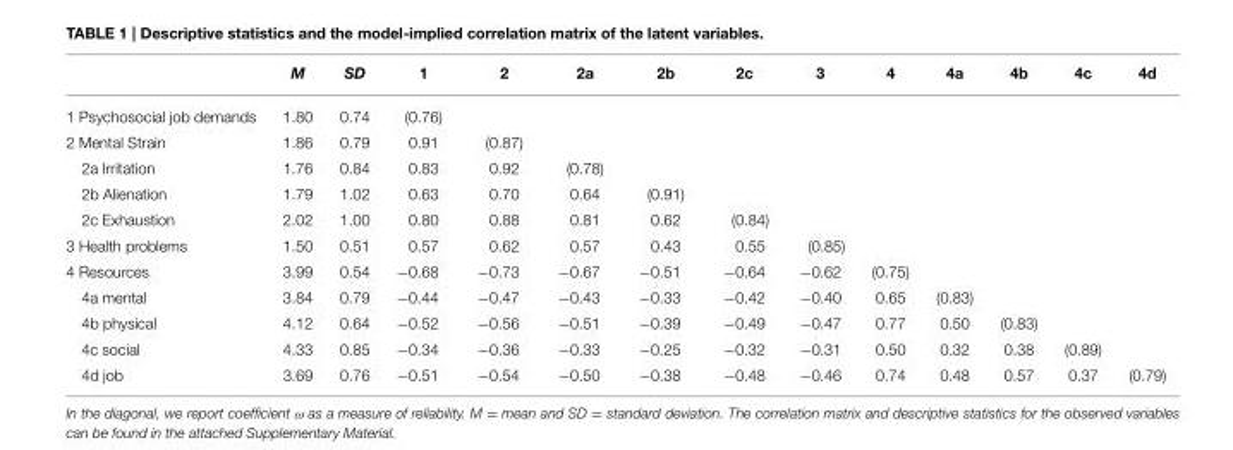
<table><thead><tr><td></td><td>M</td><td>SD</td><td>1</td><td>2</td><td>2a</td><td>2b</td><td>2c</td><td>3</td><td>4</td><td>4a</td><td>4b</td><td>4c</td><td>4d</td></tr></thead><tbody><tr><td>1 Psychosocial job demands</td><td>1.80</td><td>0.74</td><td>(0.76)</td><td></td><td></td><td></td><td></td><td></td><td></td><td></td><td></td><td></td><td></td></tr><tr><td>2 Mental Strain</td><td>1.86</td><td>0.79</td><td>0.91</td><td>(0.87)</td><td></td><td></td><td></td><td></td><td></td><td></td><td></td><td></td><td></td></tr><tr><td>2a Irritation</td><td>1.76</td><td>0.84</td><td>0.83</td><td>0.92</td><td>(0.78)</td><td></td><td></td><td></td><td></td><td></td><td></td><td></td><td></td></tr><tr><td>2b Alienation</td><td>1.79</td><td>1.02</td><td>0.63</td><td>0.70</td><td>0.64</td><td>(0.91)</td><td></td><td></td><td></td><td></td><td></td><td></td><td></td></tr><tr><td>2c Exhaustion</td><td>2.02</td><td>1.00</td><td>0.80</td><td>0.88</td><td>0.81</td><td>0.62</td><td>(0.84)</td><td></td><td></td><td></td><td></td><td></td><td></td></tr><tr><td>3 Health problems</td><td>1.50</td><td>0.51</td><td>0.57</td><td>0.62</td><td>0.57</td><td>0.43</td><td>0.55</td><td>(0.85)</td><td></td><td></td><td></td><td></td><td></td></tr><tr><td>4 Resources</td><td>3.99</td><td>0.54</td><td>−0.68</td><td>−0.73</td><td>−0.67</td><td>−0.51</td><td>−0.64</td><td>−0.62</td><td>(0.75)</td><td></td><td></td><td></td><td></td></tr><tr><td>4a mental</td><td>3.84</td><td>0.79</td><td>−0.44</td><td>−0.47</td><td>−0.43</td><td>−0.33</td><td>−0.42</td><td>−0.40</td><td>0.65</td><td>(0.83)</td><td></td><td></td><td></td></tr><tr><td>4b physical</td><td>4.12</td><td>0.64</td><td>−0.52</td><td>−0.56</td><td>−0.51</td><td>−0.39</td><td>−0.49</td><td>−0.47</td><td>0.77</td><td>0.50</td><td>(0.83)</td><td></td><td></td></tr><tr><td>4c social</td><td>4.33</td><td>0.85</td><td>−0.34</td><td>−0.36</td><td>−0.33</td><td>−0.25</td><td>−0.32</td><td>−0.31</td><td>0.50</td><td>0.32</td><td>0.38</td><td>(0.89)</td><td></td></tr><tr><td>4d job</td><td>3.69</td><td>0.76</td><td>−0.51</td><td>−0.54</td><td>−0.50</td><td>−0.38</td><td>−0.48</td><td>−0.46</td><td>0.74</td><td>0.48</td><td>0.57</td><td>0.37</td><td>(0.79)</td></tr></tbody></table>